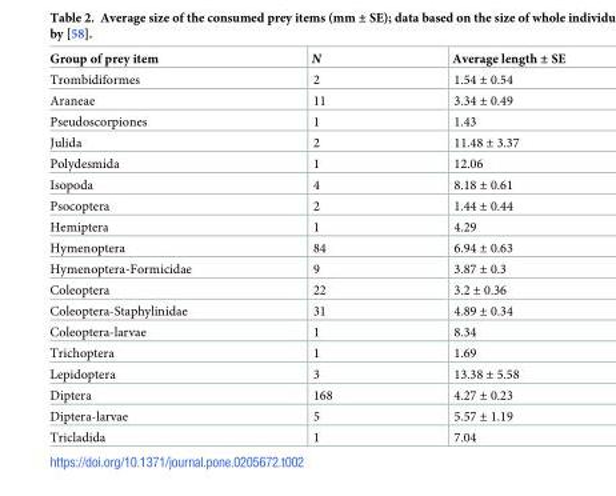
<table><thead><tr><td>Group of prey item</td><td>N</td><td>Average length ± SE</td></tr></thead><tbody><tr><td>Trombidiformes</td><td>2</td><td>1.54 ± 0.54</td></tr><tr><td>Araneae</td><td>11</td><td>3.34 ± 0.49</td></tr><tr><td>Pseudoscorpiones</td><td>1</td><td>1.43</td></tr><tr><td>Julida</td><td>2</td><td>11.48 ± 3.37</td></tr><tr><td>Polydesmida</td><td>1</td><td>12.06</td></tr><tr><td>Isopoda</td><td>4</td><td>8.18 ± 0.61</td></tr><tr><td>Psocoptera</td><td>2</td><td>1.44 ± 0.44</td></tr><tr><td>Hemiptera</td><td>1</td><td>4.29</td></tr><tr><td>Hymenoptera</td><td>84</td><td>6.94 ± 0.63</td></tr><tr><td>Hymenoptera-Formicidae</td><td>9</td><td>3.87 ± 0.3</td></tr><tr><td>Coleoptera</td><td>22</td><td>3.2 ± 0.36</td></tr><tr><td>Coleoptera-Staphylinidae</td><td>31</td><td>4.89 ± 0.34</td></tr><tr><td>Coleoptera-larvae</td><td>1</td><td>8.34</td></tr><tr><td>Trichoptera</td><td>1</td><td>1.69</td></tr><tr><td>Lepidoptera</td><td>3</td><td>13.38 ± 5.58</td></tr><tr><td>Diptera</td><td>168</td><td>4.27 ± 0.23</td></tr><tr><td>Diptera-larvae</td><td>5</td><td>5.57 ± 1.19</td></tr><tr><td>Tricladida</td><td>1</td><td>7.04</td></tr></tbody></table>